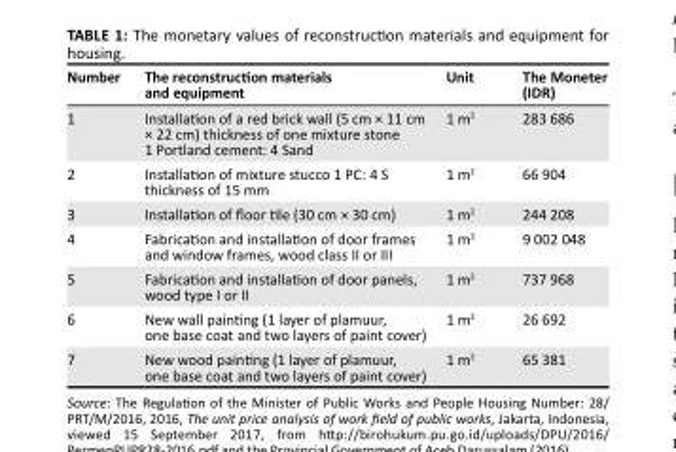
<table><thead><tr><td>Number</td><td>The reconstruction materials and equipment</td><td>Unit</td><td>The Moneter (IDR)</td></tr></thead><tbody><tr><td>1</td><td>Installation of a red brick wall (5 cm × 11 cm × 22 cm) thickness of one mixture stone 1 Portland cement: 4 Sand</td><td>1 m<sup>2</sup></td><td>283 686</td></tr><tr><td>2</td><td>Installation of mixture stucco 1 PC: 4 S thickness of 15 mm</td><td>1 m<sup>2</sup></td><td>66 904</td></tr><tr><td>3</td><td>Installation of floor tile (30 cm × 30 cm)</td><td>1 m<sup>2</sup></td><td>244 208</td></tr><tr><td>4</td><td>Fabrication and installation of door frames and window frames, wood class II or III</td><td>1 m<sup>3</sup></td><td>9 002 048</td></tr><tr><td>5</td><td>Fabrication and installation of door panels, wood type I or II</td><td>1 m<sup>2</sup></td><td>737 968</td></tr><tr><td>6</td><td>New wall painting (1 layer of plamuur, one base coat and two layers of paint cover)</td><td>1 m<sup>2</sup></td><td>26 692</td></tr><tr><td>7</td><td>New wood painting (1 layer of plamuur, one base coat and two layers of paint cover)</td><td>1 m<sup>2</sup></td><td>65 381</td></tr></tbody></table>